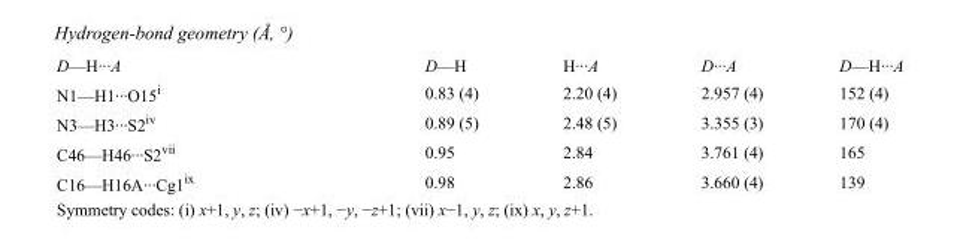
<table><tbody><tr><td>D—H···A</td><td>D—H</td><td>H···A</td><td>D···A</td><td>D—H···A</td></tr><tr><td>N1—H1···O15<sup>i</sup></td><td>0.83 (4)</td><td>2.20 (4)</td><td>2.957 (4)</td><td>152 (4)</td></tr><tr><td>N3—H3···S2<sup>iv</sup></td><td>0.89 (5)</td><td>2.48 (5)</td><td>3.355 (3)</td><td>170 (4)</td></tr><tr><td>C46—H46···S2<sup>vii</sup></td><td>0.95</td><td>2.84</td><td>3.761 (4)</td><td>165</td></tr><tr><td>C16—H16A···Cg1<sup>ix</sup></td><td>0.98</td><td>2.86</td><td>3.660 (4)</td><td>139</td></tr></tbody></table>